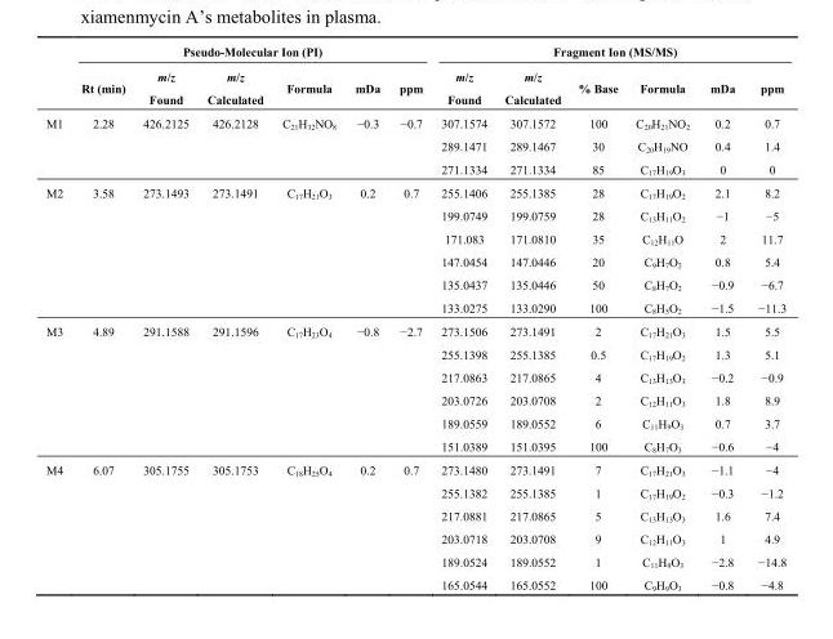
<table><thead><tr><td rowspan="2"></td><td colspan="6">Pseudo-Molecular Ion (PI)</td><td colspan="6">Fragment Ion (MS/MS)</td></tr><tr><td>Rt (min)</td><td>m/z Found</td><td>m/z Calculated</td><td>Formula</td><td>mDa</td><td>ppm</td><td>m/z Found</td><td>m/z Calculated</td><td>% Base</td><td>Formula</td><td>mDa</td><td>ppm</td></tr></thead><tbody><tr><td rowspan="3">M1</td><td>2.28</td><td>426.2125</td><td>426.2128</td><td>C<sub>21</sub>H<sub>32</sub>NO<sub>8</sub></td><td>−0.3</td><td>−0.7</td><td>307.1574</td><td>307.1572</td><td>100</td><td>C<sub>20</sub>H<sub>21</sub>NO<sub>2</sub></td><td>0.2</td><td>0.7</td></tr><tr><td></td><td></td><td></td><td></td><td></td><td></td><td>289.1471</td><td>289.1467</td><td>30</td><td>C<sub>20</sub>H<sub>19</sub>NO</td><td>0.4</td><td>1.4</td></tr><tr><td></td><td></td><td></td><td></td><td></td><td></td><td>271.1334</td><td>271.1334</td><td>85</td><td>C<sub>17</sub>H<sub>19</sub>O<sub>3</sub></td><td>0</td><td>0</td></tr><tr><td rowspan="6">M2</td><td>3.58</td><td>273.1493</td><td>273.1491</td><td>C<sub>17</sub>H<sub>21</sub>O<sub>3</sub></td><td>0.2</td><td>0.7</td><td>255.1406</td><td>255.1385</td><td>28</td><td>C<sub>17</sub>H<sub>19</sub>O<sub>2</sub></td><td>2.1</td><td>8.2</td></tr><tr><td></td><td></td><td></td><td></td><td></td><td></td><td>199.0749</td><td>199.0759</td><td>28</td><td>C<sub>13</sub>H<sub>11</sub>O<sub>2</sub></td><td>−1</td><td>−5</td></tr><tr><td></td><td></td><td></td><td></td><td></td><td></td><td>171.083</td><td>171.0810</td><td>35</td><td>C<sub>12</sub>H<sub>11</sub>O</td><td>2</td><td>11.7</td></tr><tr><td></td><td></td><td></td><td></td><td></td><td></td><td>147.0454</td><td>147.0446</td><td>20</td><td>C<sub>9</sub>H<sub>7</sub>O<sub>2</sub></td><td>0.8</td><td>5.4</td></tr><tr><td></td><td></td><td></td><td></td><td></td><td></td><td>135.0437</td><td>135.0446</td><td>50</td><td>C<sub>8</sub>H<sub>7</sub>O<sub>2</sub></td><td>−0.9</td><td>−6.7</td></tr><tr><td></td><td></td><td></td><td></td><td></td><td></td><td>133.0275</td><td>133.0290</td><td>100</td><td>C<sub>8</sub>H<sub>5</sub>O<sub>2</sub></td><td>−1.5</td><td>−11.3</td></tr><tr><td rowspan="6">M3</td><td>4.89</td><td>291.1588</td><td>291.1596</td><td>C<sub>17</sub>H<sub>23</sub>O<sub>4</sub></td><td>−0.8</td><td>−2.7</td><td>273.1506</td><td>273.1491</td><td>2</td><td>C<sub>17</sub>H<sub>21</sub>O<sub>3</sub></td><td>1.5</td><td>5.5</td></tr><tr><td></td><td></td><td></td><td></td><td></td><td></td><td>255.1398</td><td>255.1385</td><td>0.5</td><td>C<sub>17</sub>H<sub>19</sub>O<sub>2</sub></td><td>1.3</td><td>5.1</td></tr><tr><td></td><td></td><td></td><td></td><td></td><td></td><td>217.0863</td><td>217.0865</td><td>4</td><td>C<sub>13</sub>H<sub>13</sub>O<sub>3</sub></td><td>−0.2</td><td>−0.9</td></tr><tr><td></td><td></td><td></td><td></td><td></td><td></td><td>203.0726</td><td>203.0708</td><td>2</td><td>C<sub>12</sub>H<sub>11</sub>O<sub>3</sub></td><td>1.8</td><td>8.9</td></tr><tr><td></td><td></td><td></td><td></td><td></td><td></td><td>189.0559</td><td>189.0552</td><td>6</td><td>C<sub>11</sub>H<sub>9</sub>O<sub>3</sub></td><td>0.7</td><td>3.7</td></tr><tr><td></td><td></td><td></td><td></td><td></td><td></td><td>151.0389</td><td>151.0395</td><td>100</td><td>C<sub>8</sub>H<sub>7</sub>O<sub>3</sub></td><td>−0.6</td><td>−4</td></tr><tr><td rowspan="6">M4</td><td>6.07</td><td>305.1755</td><td>305.1753</td><td>C<sub>18</sub>H<sub>25</sub>O<sub>4</sub></td><td>0.2</td><td>0.7</td><td>273.1480</td><td>273.1491</td><td>7</td><td>C<sub>17</sub>H<sub>21</sub>O<sub>3</sub></td><td>−1.1</td><td>−4</td></tr><tr><td></td><td></td><td></td><td></td><td></td><td></td><td>255.1382</td><td>255.1385</td><td>1</td><td>C<sub>17</sub>H<sub>19</sub>O<sub>2</sub></td><td>−0.3</td><td>−1.2</td></tr><tr><td></td><td></td><td></td><td></td><td></td><td></td><td>217.0881</td><td>217.0865</td><td>5</td><td>C<sub>13</sub>H<sub>13</sub>O<sub>3</sub></td><td>1.6</td><td>7.4</td></tr><tr><td></td><td></td><td></td><td></td><td></td><td></td><td>203.0718</td><td>203.0708</td><td>9</td><td>C<sub>12</sub>H<sub>11</sub>O<sub>3</sub></td><td>1</td><td>4.9</td></tr><tr><td></td><td></td><td></td><td></td><td></td><td></td><td>189.0524</td><td>189.0552</td><td>1</td><td>C<sub>11</sub>H<sub>9</sub>O<sub>3</sub></td><td>−2.8</td><td>−14.8</td></tr><tr><td></td><td></td><td></td><td></td><td></td><td></td><td>165.0544</td><td>165.0552</td><td>100</td><td>C<sub>9</sub>H<sub>9</sub>O<sub>3</sub></td><td>−0.8</td><td>−4.8</td></tr></tbody></table>